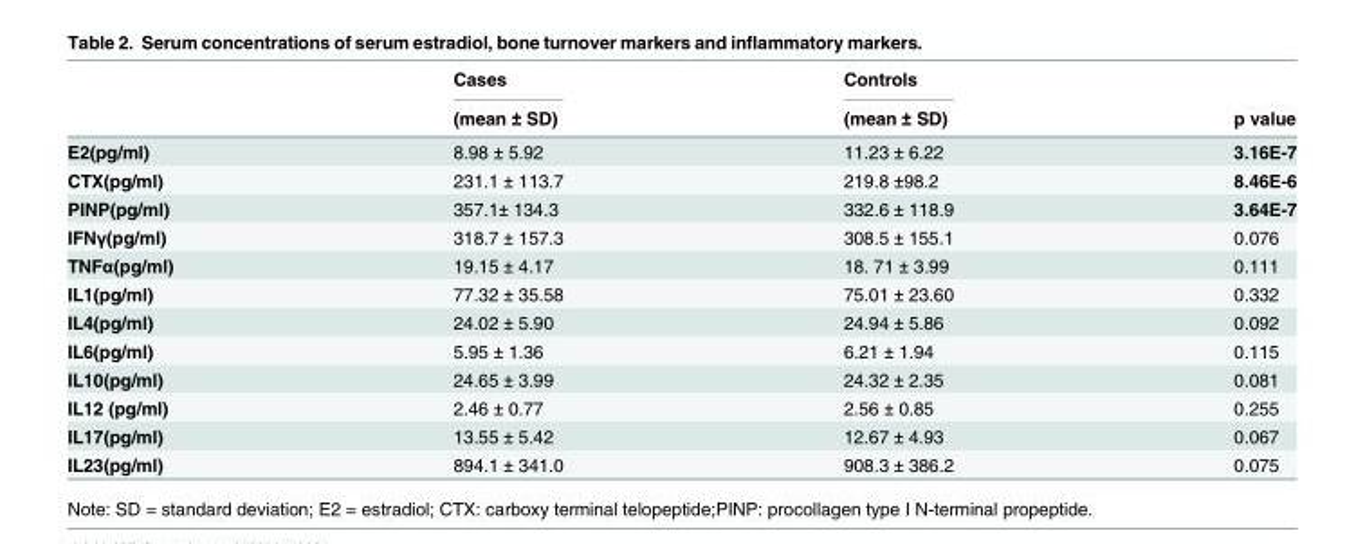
<table><thead><tr><td rowspan="2"></td><td rowspan="2">Cases (mean ± SD)</td><td rowspan="2">Controls (mean ± SD)</td><td rowspan="2">p value</td></tr><tr></tr></thead><tbody><tr><td>E2(pg/ml)</td><td>8.98 ± 5.92</td><td>11.23 ± 6.22</td><td>3.16E-7</td></tr><tr><td>CTX(pg/ml)</td><td>231.1 ± 113.7</td><td>219.8 ±98.2</td><td>8.46E-6</td></tr><tr><td>PINP(pg/ml)</td><td>357.1± 134.3</td><td>332.6 ± 118.9</td><td>3.64E-7</td></tr><tr><td>IFNγ(pg/ml)</td><td>318.7 ± 157.3</td><td>308.5 ± 155.1</td><td>0.076</td></tr><tr><td>TNFα(pg/ml)</td><td>19.15 ± 4.17</td><td>18. 71 ± 3.99</td><td>0.111</td></tr><tr><td>IL1(pg/ml)</td><td>77.32 ± 35.58</td><td>75.01 ± 23.60</td><td>0.332</td></tr><tr><td>IL4(pg/ml)</td><td>24.02 ± 5.90</td><td>24.94 ± 5.86</td><td>0.092</td></tr><tr><td>IL6(pg/ml)</td><td>5.95 ± 1.36</td><td>6.21 ± 1.94</td><td>0.115</td></tr><tr><td>IL10(pg/ml)</td><td>24.65 ± 3.99</td><td>24.32 ± 2.35</td><td>0.081</td></tr><tr><td>IL12 (pg/ml)</td><td>2.46 ± 0.77</td><td>2.56 ± 0.85</td><td>0.255</td></tr><tr><td>IL17(pg/ml)</td><td>13.55 ± 5.42</td><td>12.67 ± 4.93</td><td>0.067</td></tr><tr><td>IL23(pg/ml)</td><td>894.1 ± 341.0</td><td>908.3 ± 386.2</td><td>0.075</td></tr></tbody></table>